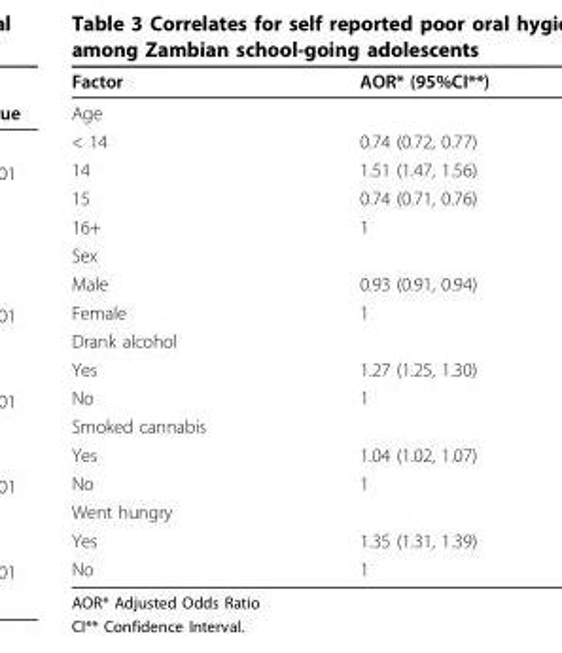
<table><thead><tr><td>Factor</td><td>AOR* (95%CI**)</td></tr></thead><tbody><tr><td colspan="2">Age</td></tr><tr><td>&lt; 14</td><td>0.74 (0.72, 0.77)</td></tr><tr><td>14</td><td>1.51 (1.47, 1.56)</td></tr><tr><td>15</td><td>0.74 (0.71, 0.76)</td></tr><tr><td>16+</td><td>1</td></tr><tr><td colspan="2">Sex</td></tr><tr><td>Male</td><td>0.93 (0.91, 0.94)</td></tr><tr><td>Female</td><td>1</td></tr><tr><td colspan="2">Drank alcohol</td></tr><tr><td>Yes</td><td>1.27 (1.25, 1.30)</td></tr><tr><td>No</td><td>1</td></tr><tr><td colspan="2">Smoked cannabis</td></tr><tr><td>Yes</td><td>1.04 (1.02, 1.07)</td></tr><tr><td>No</td><td>1</td></tr><tr><td colspan="2">Went hungry</td></tr><tr><td>Yes</td><td>1.35 (1.31, 1.39)</td></tr><tr><td>No</td><td>1</td></tr></tbody></table>